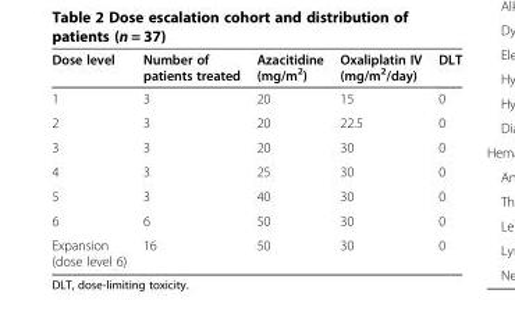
<table><thead><tr><td>Dose level</td><td>Number of patients treated</td><td>Azacitidine (mg/m<sup>2</sup>)</td><td>Oxaliplatin IV (mg/m<sup>2</sup>/day)</td><td>DLT</td></tr></thead><tbody><tr><td>1</td><td>3</td><td>20</td><td>15</td><td>0</td></tr><tr><td>2</td><td>3</td><td>20</td><td>22.5</td><td>0</td></tr><tr><td>3</td><td>3</td><td>20</td><td>30</td><td>0</td></tr><tr><td>4</td><td>3</td><td>25</td><td>30</td><td>0</td></tr><tr><td>5</td><td>3</td><td>40</td><td>30</td><td>0</td></tr><tr><td>6</td><td>6</td><td>50</td><td>30</td><td>0</td></tr><tr><td>Expansion (dose level 6)</td><td>16</td><td>50</td><td>30</td><td>0</td></tr></tbody></table>